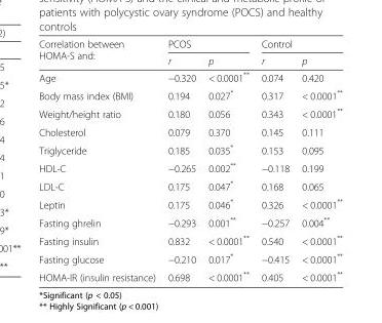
<table><thead><tr><td rowspan="2">Correlation between HOMA-S and:</td><td colspan="2">PCOS</td><td colspan="2">Control</td></tr><tr><td>r</td><td>p</td><td>r</td><td>p</td></tr></thead><tbody><tr><td>Age</td><td>−0.320</td><td>&lt; 0.0001**</td><td>0.074</td><td>0.420</td></tr><tr><td>Body mass index (BMI)</td><td>0.194</td><td>0.027*</td><td>0.317</td><td>&lt; 0.0001**</td></tr><tr><td>Weight/height ratio</td><td>0.180</td><td>0.056</td><td>0.343</td><td>&lt; 0.0001**</td></tr><tr><td>Cholesterol</td><td>0.079</td><td>0.370</td><td>0.145</td><td>0.111</td></tr><tr><td>Triglyceride</td><td>0.185</td><td>0.035*</td><td>0.153</td><td>0.095</td></tr><tr><td>HDL-C</td><td>−0.265</td><td>0.002**</td><td>−0.118</td><td>0.199</td></tr><tr><td>LDL-C</td><td>0.175</td><td>0.047*</td><td>0.168</td><td>0.065</td></tr><tr><td>Leptin</td><td>0.175</td><td>0.046*</td><td>0.326</td><td>&lt; 0.0001**</td></tr><tr><td>Fasting ghrelin</td><td>−0.293</td><td>0.001**</td><td>−0.257</td><td>0.004**</td></tr><tr><td>Fasting insulin</td><td>0.832</td><td>&lt; 0.0001**</td><td>0.540</td><td>&lt; 0.0001**</td></tr><tr><td>Fasting glucose</td><td>−0.210</td><td>0.017*</td><td>−0.415</td><td>&lt; 0.0001**</td></tr><tr><td>HOMA-IR (insulin resistance)</td><td>0.698</td><td>&lt; 0.0001**</td><td>0.405</td><td>&lt; 0.0001**</td></tr></tbody></table>